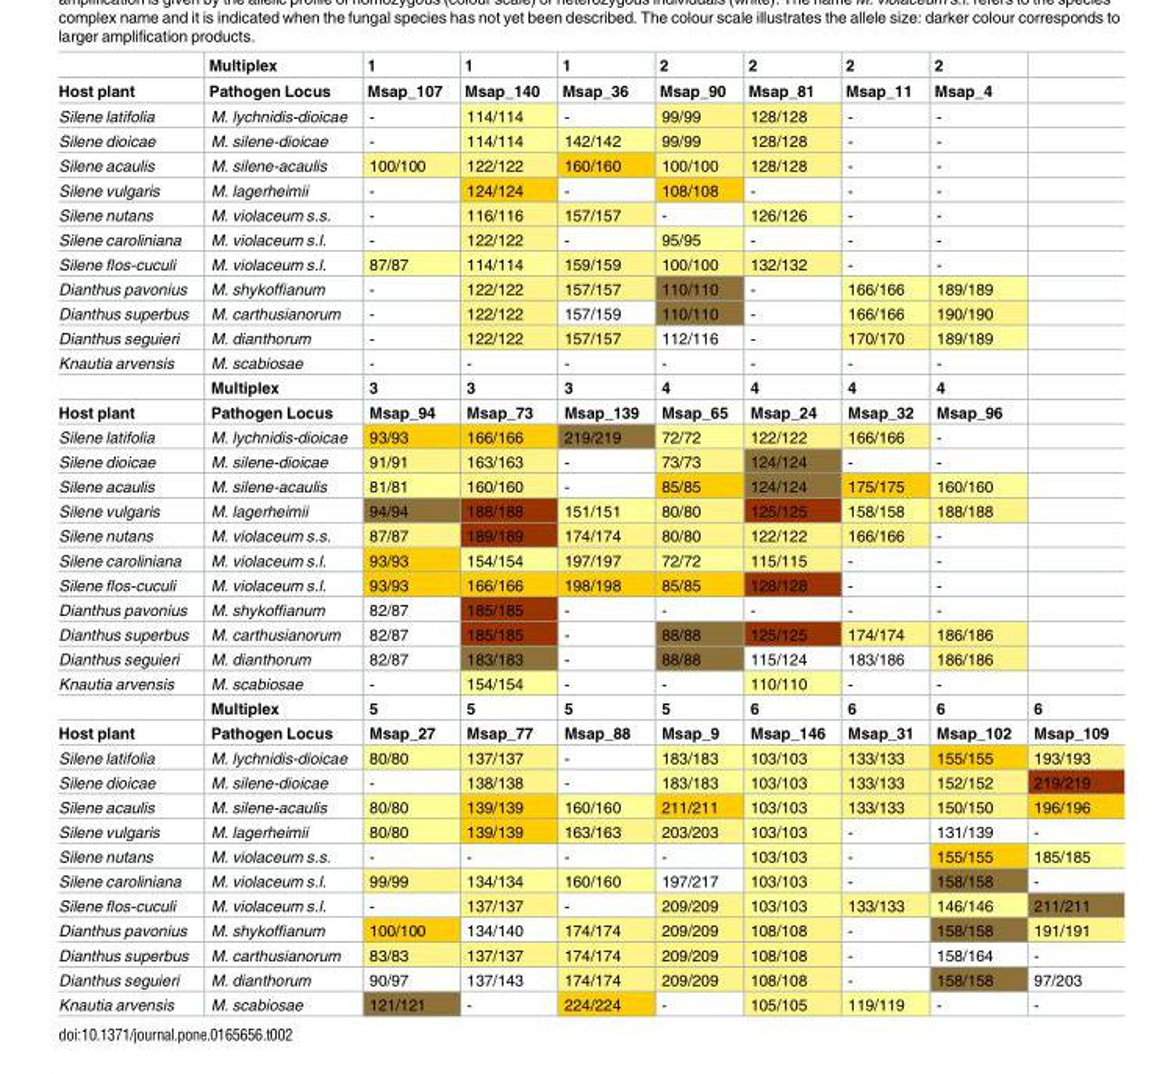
<table><thead><tr><td rowspan="2">Host plant</td><td rowspan="2">Multiplex Pathogen Locus</td><td rowspan="2">1 Msap_107</td><td rowspan="2">1 Msap_140</td><td rowspan="2">1 Msap_36</td><td rowspan="2">2 Msap_90</td><td rowspan="2">2 Msap_81</td><td rowspan="2">2 Msap_11</td><td rowspan="2">2 Msap_4</td><td rowspan="2"></td></tr><tr></tr></thead><tbody><tr><td>Silene latifolia</td><td>M. lychnidis-dioicae</td><td>-</td><td>114/114</td><td>-</td><td>99/99</td><td>128/128</td><td>-</td><td>-</td><td></td></tr><tr><td>Silene dioicae</td><td>M. silene-dioicae</td><td>-</td><td>114/114</td><td>142/142</td><td>99/99</td><td>128/128</td><td>-</td><td>-</td><td></td></tr><tr><td>Silene acaulis</td><td>M. silene-acaulis</td><td>100/100</td><td>122/122</td><td>160/160</td><td>100/100</td><td>128/128</td><td>-</td><td>-</td><td></td></tr><tr><td>Silene vulgaris</td><td>M. lagerheimii</td><td>-</td><td>124/124</td><td>-</td><td>108/108</td><td>-</td><td>-</td><td>-</td><td></td></tr><tr><td>Silene nutans</td><td>M. violaceum s.s.</td><td>-</td><td>116/116</td><td>157/157</td><td>-</td><td>126/126</td><td>-</td><td>-</td><td></td></tr><tr><td>Silene caroliniana</td><td>M. violaceum s.l.</td><td>-</td><td>122/122</td><td>-</td><td>95/95</td><td>-</td><td>-</td><td>-</td><td></td></tr><tr><td>Silene flos-cuculi</td><td>M. violaceum s.l.</td><td>87/87</td><td>114/114</td><td>159/159</td><td>100/100</td><td>132/132</td><td>-</td><td>-</td><td></td></tr><tr><td>Dianthus pavonius</td><td>M. shykoffianum</td><td>-</td><td>122/122</td><td>157/157</td><td>110/110</td><td>-</td><td>166/166</td><td>189/189</td><td></td></tr><tr><td>Dianthus superbus</td><td>M. carthusianorum</td><td>-</td><td>122/122</td><td>157/159</td><td>110/110</td><td>-</td><td>166/166</td><td>190/190</td><td></td></tr><tr><td>Dianthus seguieri</td><td>M. dianthorum</td><td>-</td><td>122/122</td><td>157/157</td><td>112/116</td><td>-</td><td>170/170</td><td>189/189</td><td></td></tr><tr><td rowspan="2">Knautia arvensis</td><td>M. scabiosae</td><td>-</td><td>-</td><td>-</td><td>-</td><td>-</td><td>-</td><td>-</td><td></td></tr><tr><td>Multiplex</td><td>3</td><td>3</td><td>3</td><td>4</td><td>4</td><td>4</td><td>4</td><td></td></tr><tr><td>Host plant</td><td>Pathogen Locus</td><td>Msap_94</td><td>Msap_73</td><td>Msap_139</td><td>Msap_65</td><td>Msap_24</td><td>Msap_32</td><td>Msap_96</td><td></td></tr><tr><td>Silene latifolia</td><td>M. lychnidis-dioicae</td><td>93/93</td><td>166/166</td><td>219/219</td><td>72/72</td><td>122/122</td><td>166/166</td><td>-</td><td></td></tr><tr><td>Silene dioicae</td><td>M. silene-dioicae</td><td>91/91</td><td>163/163</td><td>-</td><td>73/73</td><td>124/124</td><td>-</td><td>-</td><td></td></tr><tr><td>Silene acaulis</td><td>M. silene-acaulis</td><td>81/81</td><td>160/160</td><td>-</td><td>85/85</td><td>124/124</td><td>175/175</td><td>160/160</td><td></td></tr><tr><td>Silene vulgaris</td><td>M. lagerheimii</td><td>94/94</td><td>188/188</td><td>151/151</td><td>80/80</td><td>125/125</td><td>158/158</td><td>188/188</td><td></td></tr><tr><td>Silene nutans</td><td>M. violaceum s.s.</td><td>87/87</td><td>189/189</td><td>174/174</td><td>80/80</td><td>122/122</td><td>166/166</td><td>-</td><td></td></tr><tr><td>Silene caroliniana</td><td>M. violaceum s.l.</td><td>93/93</td><td>154/154</td><td>197/197</td><td>72/72</td><td>115/115</td><td>-</td><td>-</td><td></td></tr><tr><td>Silene flos-cuculi</td><td>M. violaceum s.l.</td><td>93/93</td><td>166/166</td><td>198/198</td><td>85/85</td><td>128/128</td><td>-</td><td>-</td><td></td></tr><tr><td>Dianthus pavonius</td><td>M. shykoffianum</td><td>82/87</td><td>185/185</td><td>-</td><td>-</td><td>-</td><td>-</td><td>-</td><td></td></tr><tr><td>Dianthus superbus</td><td>M. carthusianorum</td><td>82/87</td><td>185/185</td><td>-</td><td>88/88</td><td>125/125</td><td>174/174</td><td>186/186</td><td></td></tr><tr><td>Dianthus seguieri</td><td>M. dianthorum</td><td>82/87</td><td>183/183</td><td>-</td><td>88/88</td><td>115/124</td><td>183/186</td><td>186/186</td><td></td></tr><tr><td rowspan="2">Knautia arvensis</td><td>M. scabiosae</td><td>-</td><td>154/154</td><td>-</td><td>-</td><td>110/110</td><td>-</td><td>-</td><td></td></tr><tr><td>Multiplex</td><td>5</td><td>5</td><td>5</td><td>5</td><td>6</td><td>6</td><td>6</td><td>6</td></tr><tr><td>Host plant</td><td>Pathogen Locus</td><td>Msap_27</td><td>Msap_77</td><td>Msap_88</td><td>Msap_9</td><td>Msap_146</td><td>Msap_31</td><td>Msap_102</td><td>Msap_109</td></tr><tr><td>Silene latifolia</td><td>M. lychnidis-dioicae</td><td>80/80</td><td>137/137</td><td>-</td><td>183/183</td><td>103/103</td><td>133/133</td><td>155/155</td><td>193/193</td></tr><tr><td>Silene dioicae</td><td>M. silene-dioicae</td><td>-</td><td>138/138</td><td>-</td><td>183/183</td><td>103/103</td><td>133/133</td><td>152/152</td><td>219/219</td></tr><tr><td>Silene acaulis</td><td>M. silene-acaulis</td><td>80/80</td><td>139/139</td><td>160/160</td><td>211/211</td><td>103/103</td><td>133/133</td><td>150/150</td><td>196/196</td></tr><tr><td>Silene vulgaris</td><td>M. lagerheimii</td><td>80/80</td><td>139/139</td><td>163/163</td><td>203/203</td><td>103/103</td><td>-</td><td>131/139</td><td>-</td></tr><tr><td>Silene nutans</td><td>M. violaceum s.s.</td><td>-</td><td>-</td><td>-</td><td>-</td><td>103/103</td><td>-</td><td>155/155</td><td>185/185</td></tr><tr><td>Silene caroliniana</td><td>M. violaceum s.l.</td><td>99/99</td><td>134/134</td><td>160/160</td><td>197/217</td><td>103/103</td><td>-</td><td>158/158</td><td>-</td></tr><tr><td>Silene flos-cuculi</td><td>M. violaceum s.l.</td><td>-</td><td>137/137</td><td>-</td><td>209/209</td><td>103/103</td><td>133/133</td><td>146/146</td><td>211/211</td></tr><tr><td>Dianthus pavonius</td><td>M. shykoffianum</td><td>100/100</td><td>134/140</td><td>174/174</td><td>209/209</td><td>108/108</td><td>-</td><td>158/158</td><td>191/191</td></tr><tr><td>Dianthus superbus</td><td>M. carthusianorum</td><td>83/83</td><td>137/137</td><td>174/174</td><td>209/209</td><td>108/108</td><td>-</td><td>158/164</td><td>-</td></tr><tr><td>Dianthus seguieri</td><td>M. dianthorum</td><td>90/97</td><td>137/143</td><td>174/174</td><td>209/209</td><td>108/108</td><td>-</td><td>158/158</td><td>97/203</td></tr><tr><td>Knautia arvensis</td><td>M. scabiosae</td><td>121/121</td><td>-</td><td>224/224</td><td>-</td><td>105/105</td><td>119/119</td><td>-</td><td>-</td></tr></tbody></table>